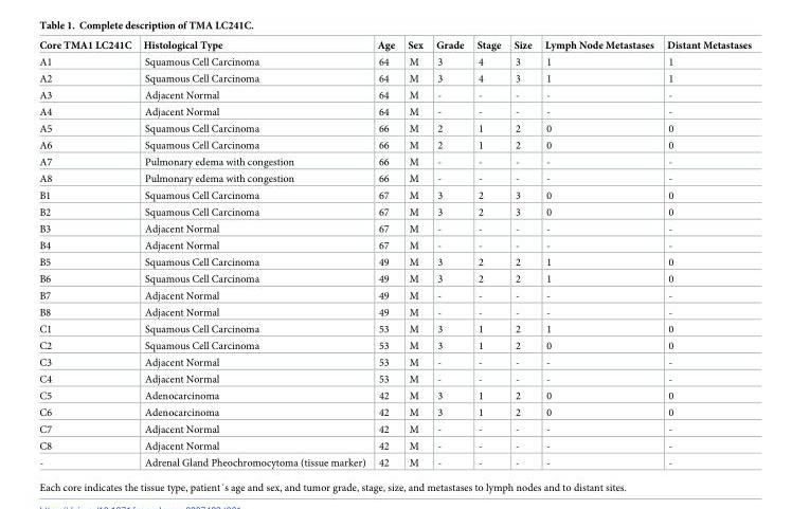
<table><thead><tr><td>Core TMA1 LC241C</td><td>Histological Type</td><td>Age</td><td>Sex</td><td>Grade</td><td>Stage</td><td>Size</td><td>Lymph Node Metastases</td><td>Distant Metastases</td></tr></thead><tbody><tr><td>A1</td><td>Squamous Cell Carcinoma</td><td>64</td><td>M</td><td>3</td><td>4</td><td>3</td><td>1</td><td>1</td></tr><tr><td>A2</td><td>Squamous Cell Carcinoma</td><td>64</td><td>M</td><td>3</td><td>4</td><td>3</td><td>1</td><td>1</td></tr><tr><td>A3</td><td>Adjacent Normal</td><td>64</td><td>M</td><td>-</td><td>-</td><td>-</td><td>-</td><td>-</td></tr><tr><td>A4</td><td>Adjacent Normal</td><td>64</td><td>M</td><td>-</td><td>-</td><td>-</td><td>-</td><td>-</td></tr><tr><td>A5</td><td>Squamous Cell Carcinoma</td><td>66</td><td>M</td><td>2</td><td>1</td><td>2</td><td>0</td><td>0</td></tr><tr><td>A6</td><td>Squamous Cell Carcinoma</td><td>66</td><td>M</td><td>2</td><td>1</td><td>2</td><td>0</td><td>0</td></tr><tr><td>A7</td><td>Pulmonary edema with congestion</td><td>66</td><td>M</td><td>-</td><td>-</td><td>-</td><td>-</td><td>-</td></tr><tr><td>A8</td><td>Pulmonary edema with congestion</td><td>66</td><td>M</td><td>-</td><td>-</td><td>-</td><td>-</td><td>-</td></tr><tr><td>B1</td><td>Squamous Cell Carcinoma</td><td>67</td><td>M</td><td>3</td><td>2</td><td>3</td><td>0</td><td>0</td></tr><tr><td>B2</td><td>Squamous Cell Carcinoma</td><td>67</td><td>M</td><td>3</td><td>2</td><td>3</td><td>0</td><td>0</td></tr><tr><td>B3</td><td>Adjacent Normal</td><td>67</td><td>M</td><td>-</td><td>-</td><td>-</td><td>-</td><td>-</td></tr><tr><td>B4</td><td>Adjacent Normal</td><td>67</td><td>M</td><td>-</td><td>-</td><td>-</td><td>-</td><td>-</td></tr><tr><td>B5</td><td>Squamous Cell Carcinoma</td><td>49</td><td>M</td><td>3</td><td>2</td><td>2</td><td>1</td><td>0</td></tr><tr><td>B6</td><td>Squamous Cell Carcinoma</td><td>49</td><td>M</td><td>3</td><td>2</td><td>2</td><td>1</td><td>0</td></tr><tr><td>B7</td><td>Adjacent Normal</td><td>49</td><td>M</td><td>-</td><td>-</td><td>-</td><td>-</td><td>-</td></tr><tr><td>B8</td><td>Adjacent Normal</td><td>49</td><td>M</td><td>-</td><td>-</td><td>-</td><td>-</td><td>-</td></tr><tr><td>C1</td><td>Squamous Cell Carcinoma</td><td>53</td><td>M</td><td>3</td><td>1</td><td>2</td><td>1</td><td>0</td></tr><tr><td>C2</td><td>Squamous Cell Carcinoma</td><td>53</td><td>M</td><td>3</td><td>1</td><td>2</td><td>0</td><td>0</td></tr><tr><td>C3</td><td>Adjacent Normal</td><td>53</td><td>M</td><td>-</td><td>-</td><td>-</td><td>-</td><td>-</td></tr><tr><td>C4</td><td>Adjacent Normal</td><td>53</td><td>M</td><td>-</td><td>-</td><td>-</td><td>-</td><td>-</td></tr><tr><td>C5</td><td>Adenocarcinoma</td><td>42</td><td>M</td><td>3</td><td>1</td><td>2</td><td>0</td><td>0</td></tr><tr><td>C6</td><td>Adenocarcinoma</td><td>42</td><td>M</td><td>3</td><td>1</td><td>2</td><td>0</td><td>0</td></tr><tr><td>C7</td><td>Adjacent Normal</td><td>42</td><td>M</td><td>-</td><td>-</td><td>-</td><td>-</td><td>-</td></tr><tr><td>C8</td><td>Adjacent Normal</td><td>42</td><td>M</td><td>-</td><td>-</td><td>-</td><td>-</td><td>-</td></tr><tr><td>-</td><td>Adrenal Gland Pheochromocytoma (tissue marker)</td><td>42</td><td>M</td><td>-</td><td>-</td><td>-</td><td>-</td><td>-</td></tr></tbody></table>